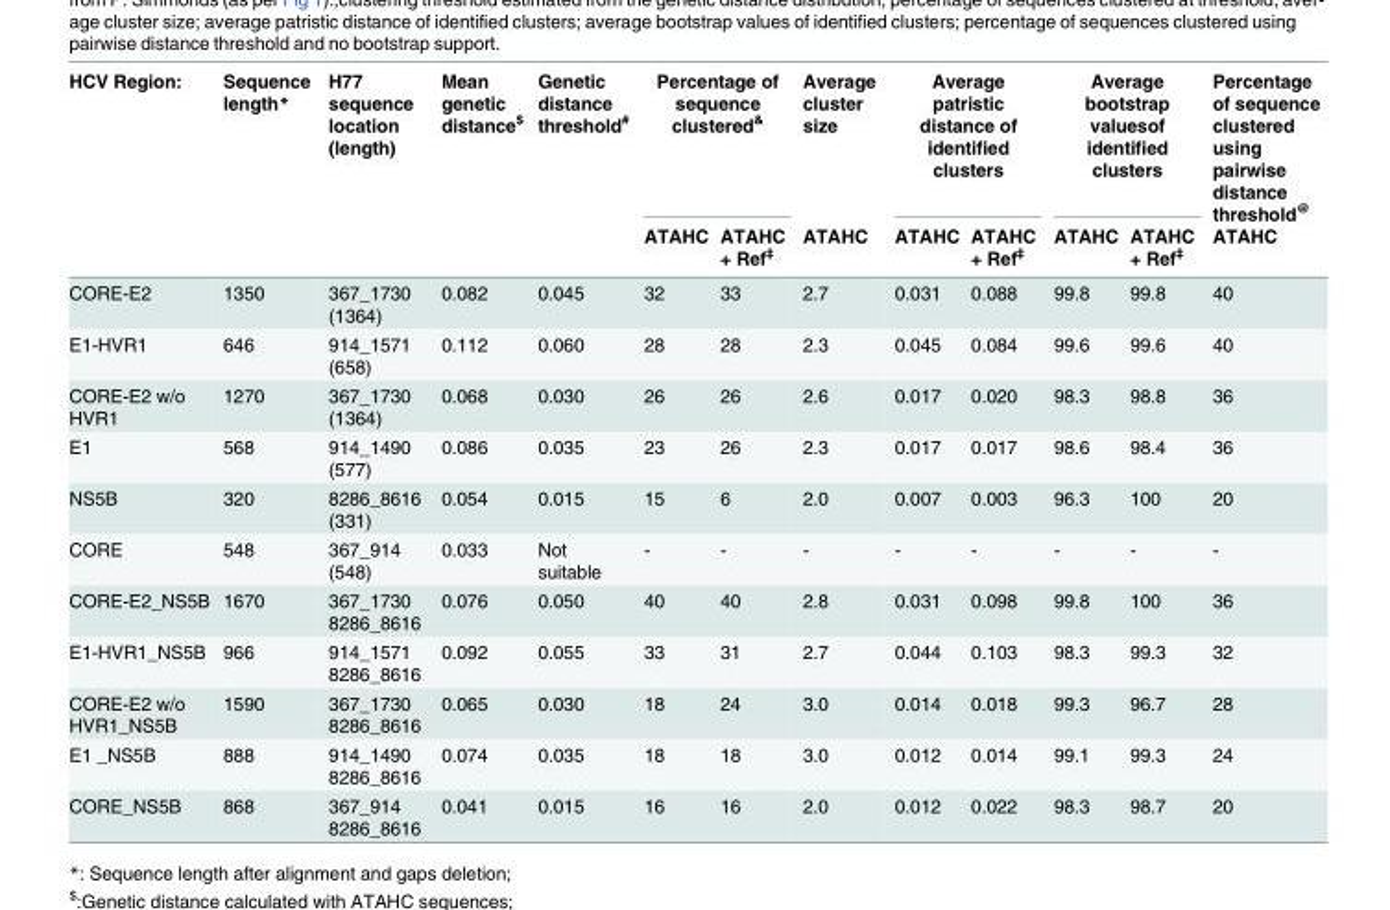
<table><thead><tr><td rowspan="2">HCV Region:</td><td rowspan="2">Sequence length*</td><td rowspan="2">H77 sequence location (length)</td><td rowspan="2">Mean genetic distance<sup>$</sup></td><td rowspan="2">Genetic distance threshold<sup>#</sup></td><td colspan="2">Percentage of sequence clustered<sup>&amp;</sup></td><td rowspan="2">Average cluster size ATAHC</td><td colspan="2">Average patristic distance of identified clusters</td><td colspan="2">Average bootstrap valuesof identified clusters</td><td rowspan="2">Percentage of sequence clustered using pairwise distance threshold<sup>@</sup> ATAHC</td></tr><tr><td>ATAHC</td><td>ATAHC + Ref<sup>‡</sup></td><td>ATAHC</td><td>ATAHC + Ref<sup>‡</sup></td><td>ATAHC</td><td>ATAHC + Ref<sup>‡</sup></td></tr></thead><tbody><tr><td>CORE-E2</td><td>1350</td><td>367_1730 (1364)</td><td>0.082</td><td>0.045</td><td>32</td><td>33</td><td>2.7</td><td>0.031</td><td>0.088</td><td>99.8</td><td>99.8</td><td>40</td></tr><tr><td>E1-HVR1</td><td>646</td><td>914_1571 (658)</td><td>0.112</td><td>0.060</td><td>28</td><td>28</td><td>2.3</td><td>0.045</td><td>0.084</td><td>99.6</td><td>99.6</td><td>40</td></tr><tr><td>CORE-E2 w/o HVR1</td><td>1270</td><td>367_1730 (1364)</td><td>0.068</td><td>0.030</td><td>26</td><td>26</td><td>2.6</td><td>0.017</td><td>0.020</td><td>98.3</td><td>98.8</td><td>36</td></tr><tr><td>E1</td><td>568</td><td>914_1490 (577)</td><td>0.086</td><td>0.035</td><td>23</td><td>26</td><td>2.3</td><td>0.017</td><td>0.017</td><td>98.6</td><td>98.4</td><td>36</td></tr><tr><td>NS5B</td><td>320</td><td>8286_8616 (331)</td><td>0.054</td><td>0.015</td><td>15</td><td>6</td><td>2.0</td><td>0.007</td><td>0.003</td><td>96.3</td><td>100</td><td>20</td></tr><tr><td>CORE</td><td>548</td><td>367_914 (548)</td><td>0.033</td><td>Not suitable</td><td>-</td><td>-</td><td>-</td><td>-</td><td>-</td><td>-</td><td>-</td><td>-</td></tr><tr><td>CORE-E2_NS5B</td><td>1670</td><td>367_1730 8286_8616</td><td>0.076</td><td>0.050</td><td>40</td><td>40</td><td>2.8</td><td>0.031</td><td>0.098</td><td>99.8</td><td>100</td><td>36</td></tr><tr><td>E1-HVR1_NS5B</td><td>966</td><td>914_1571 8286_8616</td><td>0.092</td><td>0.055</td><td>33</td><td>31</td><td>2.7</td><td>0.044</td><td>0.103</td><td>98.3</td><td>99.3</td><td>32</td></tr><tr><td>CORE-E2 w/o HVR1_NS5B</td><td>1590</td><td>367_1730 8286_8616</td><td>0.065</td><td>0.030</td><td>18</td><td>24</td><td>3.0</td><td>0.014</td><td>0.018</td><td>99.3</td><td>96.7</td><td>28</td></tr><tr><td>E1 _NS5B</td><td>888</td><td>914_1490 8286_8616</td><td>0.074</td><td>0.035</td><td>18</td><td>18</td><td>3.0</td><td>0.012</td><td>0.014</td><td>99.1</td><td>99.3</td><td>24</td></tr><tr><td>CORE_NS5B</td><td>868</td><td>367_914 8286_8616</td><td>0.041</td><td>0.015</td><td>16</td><td>16</td><td>2.0</td><td>0.012</td><td>0.022</td><td>98.3</td><td>98.7</td><td>20</td></tr></tbody></table>